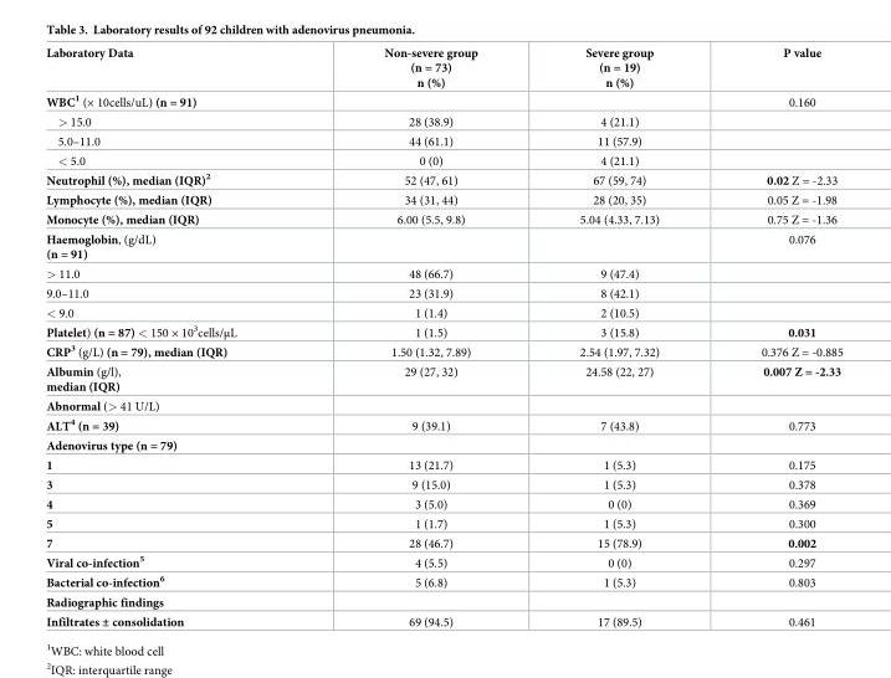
<table><thead><tr><td>Laboratory Data</td><td>Non-severe group (n = 73) n (%)</td><td>Severe group (n = 19) n (%)</td><td>P value</td></tr></thead><tbody><tr><td>WBC<sup>1</sup> (× 10cells/uL) (n = 91)</td><td></td><td></td><td>0.160</td></tr><tr><td>&gt; 15.0</td><td>28 (38.9)</td><td>4 (21.1)</td><td></td></tr><tr><td>5.0–11.0</td><td>44 (61.1)</td><td>11 (57.9)</td><td></td></tr><tr><td>&lt; 5.0</td><td>0 (0)</td><td>4 (21.1)</td><td></td></tr><tr><td>Neutrophil (%), median (IQR)<sup>2</sup></td><td>52 (47, 61)</td><td>67 (59, 74)</td><td>0.02 Z = -2.33</td></tr><tr><td>Lymphocyte (%), median (IQR)</td><td>34 (31, 44)</td><td>28 (20, 35)</td><td>0.05 Z = -1.98</td></tr><tr><td>Monocyte (%), median (IQR)</td><td>6.00 (5.5, 9.8)</td><td>5.04 (4.33, 7.13)</td><td>0.75 Z = -1.36</td></tr><tr><td>Haemoglobin, (g/dL) (n = 91)</td><td></td><td></td><td>0.076</td></tr><tr><td>&gt; 11.0</td><td>48 (66.7)</td><td>9 (47.4)</td><td></td></tr><tr><td>9.0–11.0</td><td>23 (31.9)</td><td>8 (42.1)</td><td></td></tr><tr><td>&lt; 9.0</td><td>1 (1.4)</td><td>2 (10.5)</td><td></td></tr><tr><td>Platelet) (n = 87) &lt; 150 × 10<sup>3</sup>cells/μL</td><td>1 (1.5)</td><td>3 (15.8)</td><td>0.031</td></tr><tr><td>CRP<sup>3</sup> (g/L) (n = 79), median (IQR)</td><td>1.50 (1.32, 7.89)</td><td>2.54 (1.97, 7.32)</td><td>0.376 Z = -0.885</td></tr><tr><td>Albumin (g/l), median (IQR)</td><td>29 (27, 32)</td><td>24.58 (22, 27)</td><td>0.007 Z = -2.33</td></tr><tr><td colspan="4">Abnormal (&gt; 41 U/L)</td></tr><tr><td>ALT<sup>4</sup> (n = 39)</td><td>9 (39.1)</td><td>7 (43.8)</td><td>0.773</td></tr><tr><td colspan="4">Adenovirus type (n = 79)</td></tr><tr><td>1</td><td>13 (21.7)</td><td>1 (5.3)</td><td>0.175</td></tr><tr><td>3</td><td>9 (15.0)</td><td>1 (5.3)</td><td>0.378</td></tr><tr><td>4</td><td>3 (5.0)</td><td>0 (0)</td><td>0.369</td></tr><tr><td>5</td><td>1 (1.7)</td><td>1 (5.3)</td><td>0.300</td></tr><tr><td>7</td><td>28 (46.7)</td><td>15 (78.9)</td><td>0.002</td></tr><tr><td>Viral co-infection<sup>5</sup></td><td>4 (5.5)</td><td>0 (0)</td><td>0.297</td></tr><tr><td>Bacterial co-infection<sup>6</sup></td><td>5 (6.8)</td><td>1 (5.3)</td><td>0.803</td></tr><tr><td colspan="4">Radiographic findings</td></tr><tr><td>Infiltrates ± consolidation</td><td>69 (94.5)</td><td>17 (89.5)</td><td>0.461</td></tr></tbody></table>